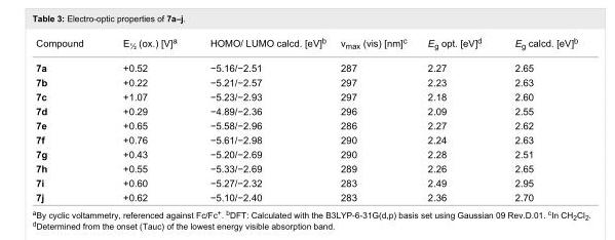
<table><tbody><tr><td>Compound</td><td>E<sub>½</sub> (ox.) [V]<sup>a</sup></td><td>HOMO/ LUMO calcd. [eV]<sup>b</sup></td><td>ν<sub>max</sub> (vis) [nm]<sup>c</sup></td><td>E<sub>g</sub> opt. [eV]<sup>d</sup></td><td>E<sub>g</sub> calcd. [eV]<sup>b</sup></td></tr><tr><td>7a</td><td>+0.52</td><td>−5.16/−2.51</td><td>287</td><td>2.27</td><td>2.65</td></tr><tr><td>7b</td><td>+0.22</td><td>−5.21/−2.57</td><td>297</td><td>2.23</td><td>2.63</td></tr><tr><td>7c</td><td>+1.07</td><td>−5.23/−2.93</td><td>297</td><td>2.18</td><td>2.60</td></tr><tr><td>7d</td><td>+0.29</td><td>−4.89/−2.36</td><td>296</td><td>2.09</td><td>2.55</td></tr><tr><td>7e</td><td>+0.65</td><td>−5.58/−2.96</td><td>286</td><td>2.27</td><td>2.62</td></tr><tr><td>7f</td><td>+0.76</td><td>−5.61/−2.98</td><td>290</td><td>2.24</td><td>2.63</td></tr><tr><td>7g</td><td>+0.43</td><td>−5.20/−2.69</td><td>290</td><td>2.28</td><td>2.51</td></tr><tr><td>7h</td><td>+0.55</td><td>−5.33/−2.69</td><td>289</td><td>2.26</td><td>2.65</td></tr><tr><td>7i</td><td>+0.60</td><td>−5.27/−2.32</td><td>283</td><td>2.49</td><td>2.95</td></tr><tr><td>7j</td><td>+0.62</td><td>−5.10/−2.40</td><td>283</td><td>2.36</td><td>2.70</td></tr></tbody></table>